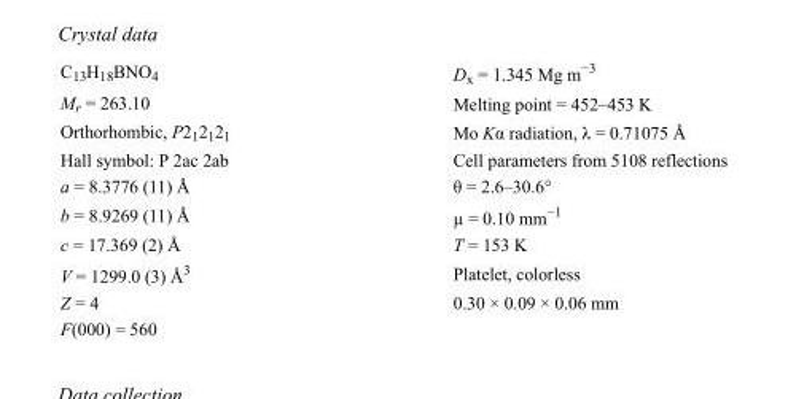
<table><tbody><tr><td>C<sub>13</sub>H<sub>18</sub>BNO<sub>4</sub></td><td>D<sub>x</sub> = 1.345 Mg m<sup>−3</sup></td></tr><tr><td>M<sub>r</sub> = 263.10</td><td>Melting point = 452–453 K</td></tr><tr><td>Orthorhombic, P2<sub>1</sub>2<sub>1</sub>2<sub>1</sub></td><td>Mo Kα radiation, λ = 0.71075 Å</td></tr><tr><td>Hall symbol: P 2ac 2ab</td><td>Cell parameters from 5108 reflections</td></tr><tr><td>a = 8.3776 (11) Å</td><td>θ = 2.6–30.6°</td></tr><tr><td>b = 8.9269 (11) Å</td><td>µ = 0.10 mm<sup>−1</sup></td></tr><tr><td>c = 17.369 (2) Å</td><td>T = 153 K</td></tr><tr><td>V = 1299.0 (3) Å<sup>3</sup></td><td>Platelet, colorless</td></tr><tr><td>Z = 4</td><td>0.30 × 0.09 × 0.06 mm</td></tr><tr><td>F(000) = 560</td><td></td></tr></tbody></table>